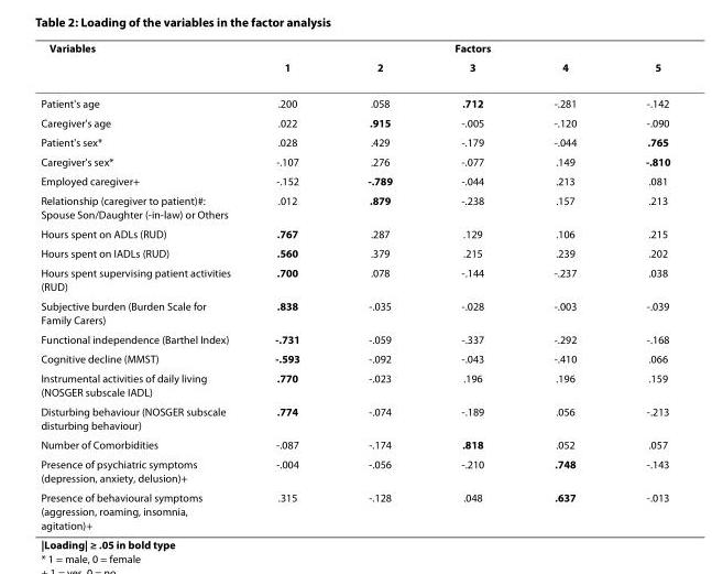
<table><thead><tr><td rowspan="2">Variables</td><td colspan="5">Factors</td></tr><tr><td>1</td><td>2</td><td>3</td><td>4</td><td>5</td></tr></thead><tbody><tr><td>Patient&#x27;s age</td><td>.200</td><td>.058</td><td>.712</td><td>-.281</td><td>-.142</td></tr><tr><td>Caregiver&#x27;s age</td><td>.022</td><td>.915</td><td>-.005</td><td>-.120</td><td>-.090</td></tr><tr><td>Patient&#x27;s sex*</td><td>.028</td><td>.429</td><td>-.179</td><td>-.044</td><td>.765</td></tr><tr><td>Caregiver&#x27;s sex*</td><td>-.107</td><td>.276</td><td>-.077</td><td>.149</td><td>-.810</td></tr><tr><td>Employed caregiver+</td><td>-.152</td><td>-.789</td><td>-.044</td><td>.213</td><td>.081</td></tr><tr><td>Relationship (caregiver to patient)#: Spouse Son/Daughter (-in-law) or Others</td><td>.012</td><td>.879</td><td>-.238</td><td>.157</td><td>.213</td></tr><tr><td>Hours spent on ADLs (RUD)</td><td>.767</td><td>.287</td><td>.129</td><td>.106</td><td>.215</td></tr><tr><td>Hours spent on IADLs (RUD)</td><td>.560</td><td>.379</td><td>.215</td><td>.239</td><td>.202</td></tr><tr><td>Hours spent supervising patient activities (RUD)</td><td>.700</td><td>.078</td><td>-.144</td><td>-.237</td><td>.038</td></tr><tr><td>Subjective burden (Burden Scale for Family Carers)</td><td>.838</td><td>-.035</td><td>-.028</td><td>-.003</td><td>-.039</td></tr><tr><td>Functional independence (Barthel Index)</td><td>-.731</td><td>-.059</td><td>-.337</td><td>-.292</td><td>-.168</td></tr><tr><td>Cognitive decline (MMST)</td><td>-.593</td><td>-.092</td><td>-.043</td><td>-.410</td><td>.066</td></tr><tr><td>Instrumental activities of daily living (NOSGER subscale IADL)</td><td>.770</td><td>-.023</td><td>.196</td><td>.196</td><td>.159</td></tr><tr><td>Disturbing behaviour (NOSGER subscale disturbing behaviour)</td><td>.774</td><td>-.074</td><td>-.189</td><td>.056</td><td>-.213</td></tr><tr><td>Number of Comorbidities</td><td>-.087</td><td>-.174</td><td>.818</td><td>.052</td><td>.057</td></tr><tr><td>Presence of psychiatric symptoms (depression, anxiety, delusion)+</td><td>-.004</td><td>-.056</td><td>-.210</td><td>.748</td><td>-.143</td></tr><tr><td>Presence of behavioural symptoms (aggression, roaming, insomnia, agitation)+</td><td>.315</td><td>-.128</td><td>.048</td><td>.637</td><td>-.013</td></tr></tbody></table>